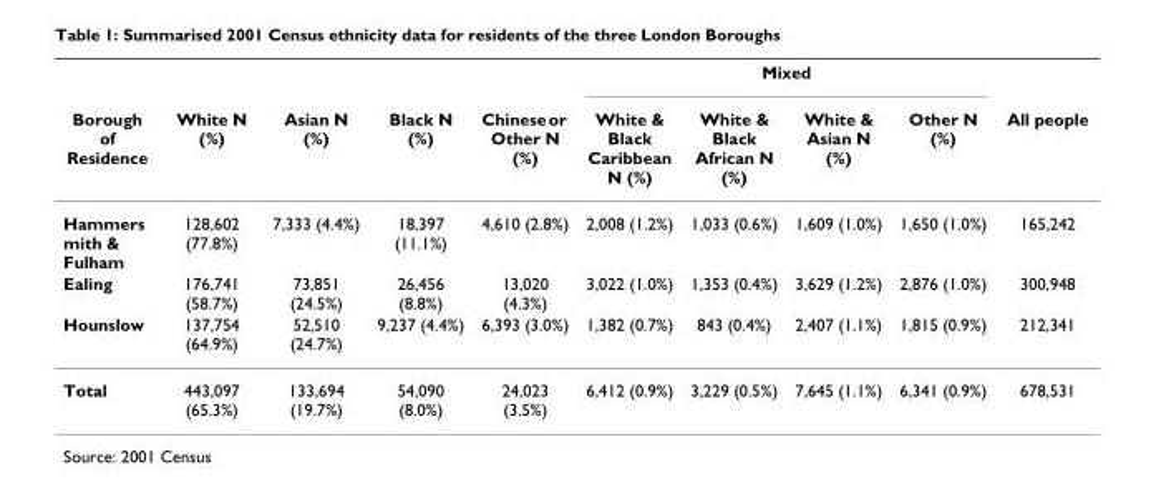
<table><thead><tr><td rowspan="2">Borough of Residence</td><td rowspan="2">White N (%)</td><td rowspan="2">Asian N (%)</td><td rowspan="2">Black N (%)</td><td rowspan="2">Chinese or Other N (%)</td><td colspan="4">Mixed</td><td rowspan="2">All people</td></tr><tr><td>White &amp; Black Caribbean N (%)</td><td>White &amp; Black African N (%)</td><td>White &amp; Asian N (%)</td><td>Other N (%)</td></tr></thead><tbody><tr><td>Hammers mith &amp; Fulham</td><td>128,602 (77.8%)</td><td>7,333 (4.4%)</td><td>18,397 (11.1%)</td><td>4,610 (2.8%)</td><td>2,008 (1.2%)</td><td>1,033 (0.6%)</td><td>1,609 (1.0%)</td><td>1,650 (1.0%)</td><td>165,242</td></tr><tr><td>Ealing</td><td>176,741 (58.7%)</td><td>73,851 (24.5%)</td><td>26,456 (8.8%)</td><td>13,020 (4.3%)</td><td>3,022 (1.0%)</td><td>1,353 (0.4%)</td><td>3,629 (1.2%)</td><td>2,876 (1.0%)</td><td>300,948</td></tr><tr><td>Hounslow</td><td>137,754 (64.9%)</td><td>52,510 (24.7%)</td><td>9,237 (4.4%)</td><td>6,393 (3.0%)</td><td>1,382 (0.7%)</td><td>843 (0.4%)</td><td>2,407 (1.1%)</td><td>1,815 (0.9%)</td><td>212,341</td></tr><tr><td>Total</td><td>443,097 (65.3%)</td><td>133,694 (19.7%)</td><td>54,090 (8.0%)</td><td>24,023 (3.5%)</td><td>6,412 (0.9%)</td><td>3,229 (0.5%)</td><td>7,645 (1.1%)</td><td>6,341 (0.9%)</td><td>678,531</td></tr></tbody></table>